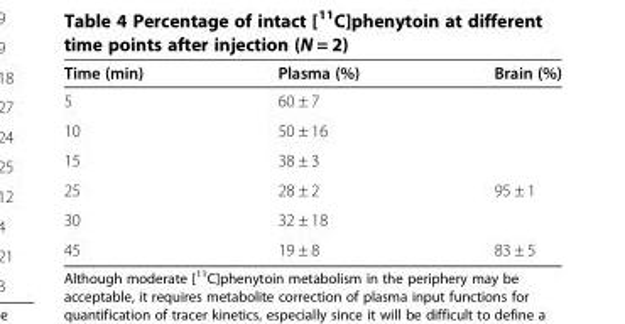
<table><thead><tr><td>Time (min)</td><td>Plasma (%)</td><td>Brain (%)</td></tr></thead><tbody><tr><td>5</td><td>60 ± 7</td><td></td></tr><tr><td>10</td><td>50 ± 16</td><td></td></tr><tr><td>15</td><td>38 ± 3</td><td></td></tr><tr><td>25</td><td>28 ± 2</td><td>95 ± 1</td></tr><tr><td>30</td><td>32 ± 18</td><td></td></tr><tr><td>45</td><td>19 ± 8</td><td>83 ± 5</td></tr></tbody></table>